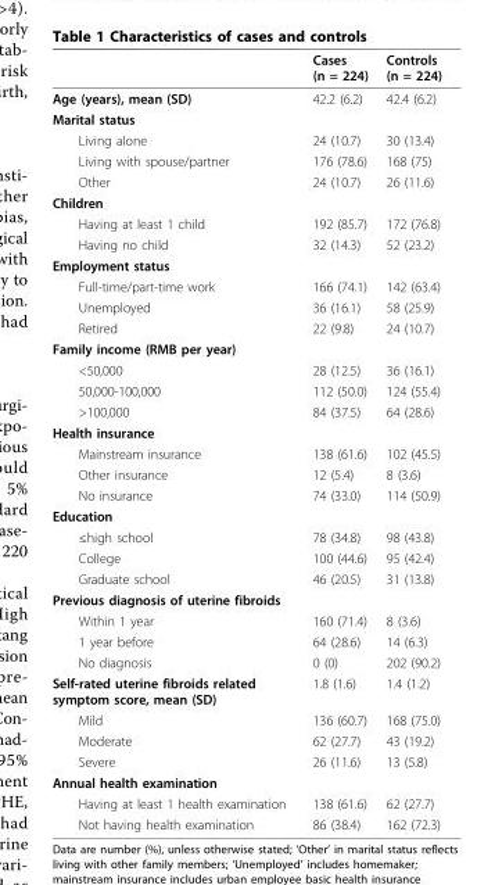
<table><thead><tr><td></td><td>Cases (n = 224)</td><td>Controls (n = 224)</td></tr></thead><tbody><tr><td>Age (years), mean (SD)</td><td>42.2 (6.2)</td><td>42.4 (6.2)</td></tr><tr><td colspan="3">Marital status</td></tr><tr><td>Living alone</td><td>24 (10.7)</td><td>30 (13.4)</td></tr><tr><td>Living with spouse/partner</td><td>176 (78.6)</td><td>168 (75)</td></tr><tr><td>Other</td><td>24 (10.7)</td><td>26 (11.6)</td></tr><tr><td colspan="3">Children</td></tr><tr><td>Having at least 1 child</td><td>192 (85.7)</td><td>172 (76.8)</td></tr><tr><td>Having no child</td><td>32 (14.3)</td><td>52 (23.2)</td></tr><tr><td colspan="3">Employment status</td></tr><tr><td>Full-time/part-time work</td><td>166 (74.1)</td><td>142 (63.4)</td></tr><tr><td>Unemployed</td><td>36 (16.1)</td><td>58 (25.9)</td></tr><tr><td>Retired</td><td>22 (9.8)</td><td>24 (10.7)</td></tr><tr><td colspan="3">Family income (RMB per year)</td></tr><tr><td>&lt;50,000</td><td>28 (12.5)</td><td>36 (16.1)</td></tr><tr><td>50,000-100,000</td><td>112 (50.0)</td><td>124 (55.4)</td></tr><tr><td>&gt;100,000</td><td>84 (37.5)</td><td>64 (28.6)</td></tr><tr><td colspan="3">Health insurance</td></tr><tr><td>Mainstream insurance</td><td>138 (61.6)</td><td>102 (45.5)</td></tr><tr><td>Other insurance</td><td>12 (5.4)</td><td>8 (3.6)</td></tr><tr><td>No insurance</td><td>74 (33.0)</td><td>114 (50.9)</td></tr><tr><td colspan="3">Education</td></tr><tr><td>≤high school</td><td>78 (34.8)</td><td>98 (43.8)</td></tr><tr><td>College</td><td>100 (44.6)</td><td>95 (42.4)</td></tr><tr><td>Graduate school</td><td>46 (20.5)</td><td>31 (13.8)</td></tr><tr><td colspan="3">Previous diagnosis of uterine fibroids</td></tr><tr><td>Within 1 year</td><td>160 (71.4)</td><td>8 (3.6)</td></tr><tr><td>1 year before</td><td>64 (28.6)</td><td>14 (6.3)</td></tr><tr><td>No diagnosis</td><td>0 (0)</td><td>202 (90.2)</td></tr><tr><td>Self-rated uterine fibroids related symptom score, mean (SD)</td><td>1.8 (1.6)</td><td>1.4 (1.2)</td></tr><tr><td>Mild</td><td>136 (60.7)</td><td>168 (75.0)</td></tr><tr><td>Moderate</td><td>62 (27.7)</td><td>43 (19.2)</td></tr><tr><td>Severe</td><td>26 (11.6)</td><td>13 (5.8)</td></tr><tr><td colspan="3">Annual health examination</td></tr><tr><td>Having at least 1 health examination</td><td>138 (61.6)</td><td>62 (27.7)</td></tr><tr><td>Not having health examination</td><td>86 (38.4)</td><td>162 (72.3)</td></tr></tbody></table>